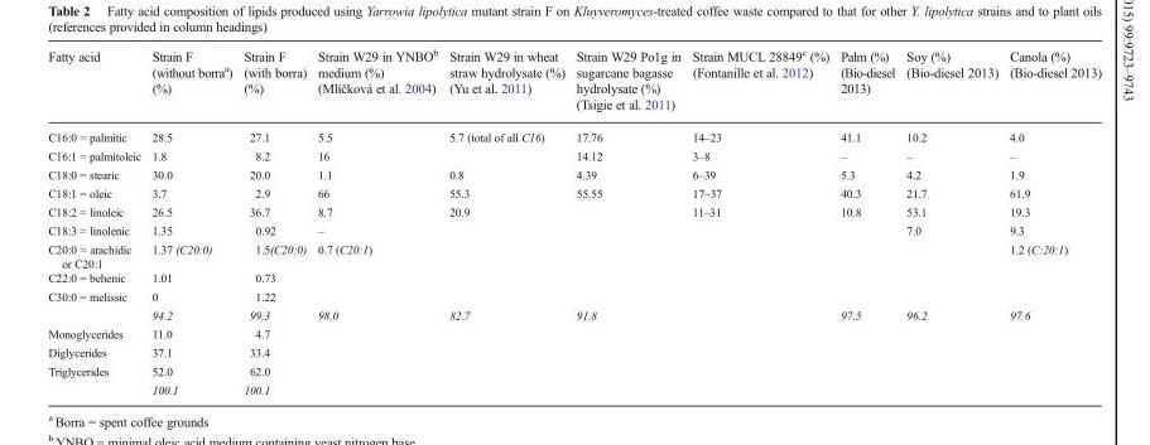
<table><thead><tr><td>Fatty acid</td><td>Strain F (without borra<sup>a</sup>) (%)</td><td>Strain F (with borra) (%)</td><td>Strain W29 in YNBO<sup>b</sup> medium (%) (Mlíčková et al. 2004)</td><td>Strain W29 in wheat straw hydrolysate (%) (Yu et al. 2011)</td><td>Strain W29 Po1g in sugarcane bagasse hydrolysate (%) (Tsigie et al. 2011)</td><td>Strain MUCL 28849<sup>c</sup> (%) (Fontanille et al. 2012)</td><td>Palm (%) (Bio-diesel 2013)</td><td>Soy (%) (Bio-diesel 2013)</td><td>Canola (%) (Bio-diesel 2013)</td></tr></thead><tbody><tr><td>C16:0 = palmitic</td><td>28.5</td><td>27.1</td><td>5.5</td><td rowspan="2">5.7 (total of all C16)</td><td>17.76</td><td>14–23</td><td>41.1</td><td>10.2</td><td>4.0</td></tr><tr><td>C16:1 = palmitoleic</td><td>1.8</td><td>8.2</td><td>16</td><td>14.12</td><td>3–8</td><td>–</td><td>–</td><td>–</td></tr><tr><td>C18:0 = stearic</td><td>30.0</td><td>20.0</td><td>1.1</td><td>0.8</td><td>4.39</td><td>6–39</td><td>5.3</td><td>4.2</td><td>1.9</td></tr><tr><td>C18:1 = oleic</td><td>3.7</td><td>2.9</td><td>66</td><td>55.3</td><td>55.55</td><td>17–37</td><td>40.3</td><td>21.7</td><td>61.9</td></tr><tr><td>C18:2 = linoleic</td><td>26.5</td><td>36.7</td><td>8.7</td><td>20.9</td><td></td><td>11–31</td><td>10.8</td><td>53.1</td><td>19.3</td></tr><tr><td>C18:3 = linolenic</td><td>1.35</td><td>0.92</td><td>–</td><td></td><td></td><td></td><td></td><td>7.0</td><td>9.3</td></tr><tr><td>C20:0 = arachidic or C20:1</td><td>1.37 (C20:0)</td><td>1.5(C20:0)</td><td>0.7 (C20:1)</td><td></td><td></td><td></td><td></td><td></td><td>1.2 (C:20:1)</td></tr><tr><td>C22:0 = behenic</td><td>1.01</td><td>0.73</td><td></td><td></td><td></td><td></td><td></td><td></td><td></td></tr><tr><td rowspan="2">C30:0 = melissic</td><td>0</td><td>1.22</td><td></td><td></td><td></td><td></td><td></td><td></td><td></td></tr><tr><td>94.2</td><td>99.3</td><td>98.0</td><td>82.7</td><td>91.8</td><td></td><td>97.5</td><td>96.2</td><td>97.6</td></tr><tr><td>Monoglycerides</td><td>11.0</td><td>4.7</td><td></td><td></td><td></td><td></td><td></td><td></td><td></td></tr><tr><td>Diglycerides</td><td>37.1</td><td>33.4</td><td></td><td></td><td></td><td></td><td></td><td></td><td></td></tr><tr><td rowspan="2">Triglycerides</td><td>52.0</td><td>62.0</td><td></td><td></td><td></td><td></td><td></td><td></td><td></td></tr><tr><td>100.1</td><td>100.1</td><td></td><td></td><td></td><td></td><td></td><td></td><td></td></tr></tbody></table>